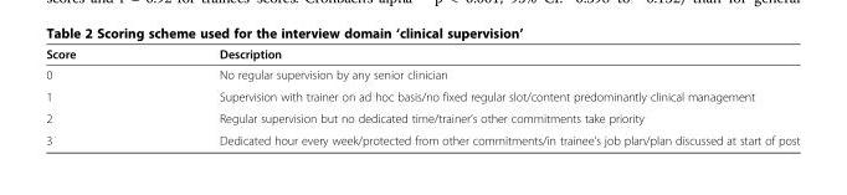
<table><thead><tr><td>Score</td><td>Description</td></tr></thead><tbody><tr><td>0</td><td>No regular supervision by any senior clinician</td></tr><tr><td>1</td><td>Supervision with trainer on ad hoc basis/no fixed regular slot/content predominantly clinical management</td></tr><tr><td>2</td><td>Regular supervision but no dedicated time/trainer’s other commitments take priority</td></tr><tr><td>3</td><td>Dedicated hour every week/protected from other commitments/in trainee’s job plan/plan discussed at start of post</td></tr></tbody></table>